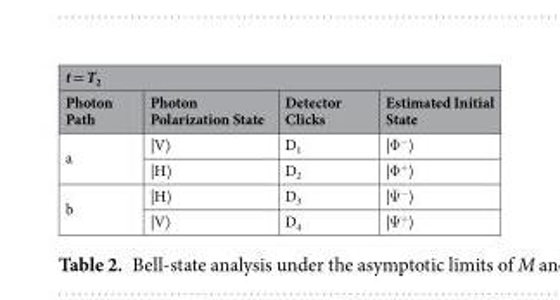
<table><thead><tr><td colspan="4">t = T<sub>2</sub></td></tr><tr><td>Photon Path</td><td>Photon Polarization State</td><td>Detector Clicks</td><td>Estimated Initial State</td></tr></thead><tbody><tr><td rowspan="2">a</td><td>|V〉</td><td>D<sub>1</sub></td><td>|Φ<sup>−</sup>〉</td></tr><tr><td>|H〉</td><td>D<sub>2</sub></td><td>|Φ<sup>+</sup>〉</td></tr><tr><td rowspan="2">b</td><td>|H〉</td><td>D<sub>3</sub></td><td>|Ψ<sup>−</sup>〉</td></tr><tr><td>|V〉</td><td>D<sub>4</sub></td><td>|Ψ<sup>+</sup>〉</td></tr></tbody></table>